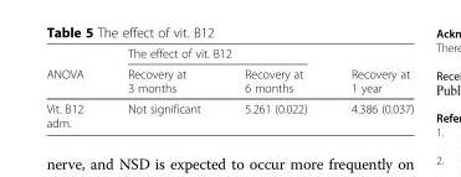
<table><thead><tr><td rowspan="2">ANOVA</td><td colspan="2">The effect of vit. B12</td><td rowspan="2">Recovery at 1 year</td></tr><tr><td>Recovery at 3 months</td><td>Recovery at 6 months</td></tr></thead><tbody><tr><td>Vit. B12 adm.</td><td>Not significant</td><td>5.261 (0.022)</td><td>4.386 (0.037)</td></tr></tbody></table>